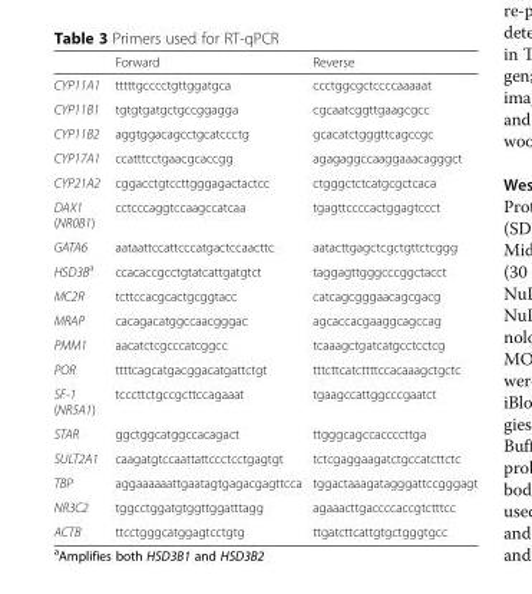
<table><thead><tr><td></td><td>Forward</td><td>Reverse</td></tr></thead><tbody><tr><td>CYP11A1</td><td>tttttgcccctgttggatgca</td><td>ccctggcgctccccaaaaat</td></tr><tr><td>CYP11B1</td><td>tgtgtgatgctgccggagga</td><td>cgcaatcggttgaagcgcc</td></tr><tr><td>CYP11B2</td><td>aggtggacagcctgcatccctg</td><td>gcacatctgggttcagccgc</td></tr><tr><td>CYP17A1</td><td>ccatttcctgaacgcaccgg</td><td>agagaggccaaggaaacagggct</td></tr><tr><td>CYP21A2</td><td>cggacctgtccttgggagactactcc</td><td>ctgggctctcatgcgctcaca</td></tr><tr><td>DAX1 (NR0B1)</td><td>cctcccaggtccaagccatcaa</td><td>tgagttccccactggagtccct</td></tr><tr><td>GATA6</td><td>aataattccattcccatgactccaacttc</td><td>aatacttgagctcgctgttctcggg</td></tr><tr><td>HSD3B<sup>a</sup></td><td>ccacaccgcctgtatcattgatgtct</td><td>taggagttgggcccggctacct</td></tr><tr><td>MC2R</td><td>tcttccacgcactgcggtacc</td><td>catcagcgggaacagcgacg</td></tr><tr><td>MRAP</td><td>cacagacatggccaacgggac</td><td>agcaccacgaaggcagccag</td></tr><tr><td>PMM1</td><td>aacatctcgcccatcggcc</td><td>tcaaagctgatcatgcctcctcg</td></tr><tr><td>POR</td><td>ttttcagcatgacggacatgattctgt</td><td>tttcttcatcttttccacaaagctgctc</td></tr><tr><td>SF-1 (NR5A1)</td><td>tcccttctgccgcttccagaaat</td><td>tgaagccattggcccgaatct</td></tr><tr><td>STAR</td><td>ggctggcatggccacagact</td><td>ttgggcagccaccccttga</td></tr><tr><td>SULT2A1</td><td>caagatgtccaattattccctcctgagtgt</td><td>tctcgaggaagatctgccatcttctc</td></tr><tr><td>TBP</td><td>aggaaaaaattgaatagtgagacgagttcca</td><td>tggactaaagatagggattccgggagt</td></tr><tr><td>NR3C2</td><td>tggcctggatgtggttggatttagg</td><td>agaaacttgaccccaccgtctttcc</td></tr><tr><td>ACTB</td><td>ttcctgggcatggagtcctgtg</td><td>ttgatcttcattgtgctgggtgcc</td></tr></tbody></table>